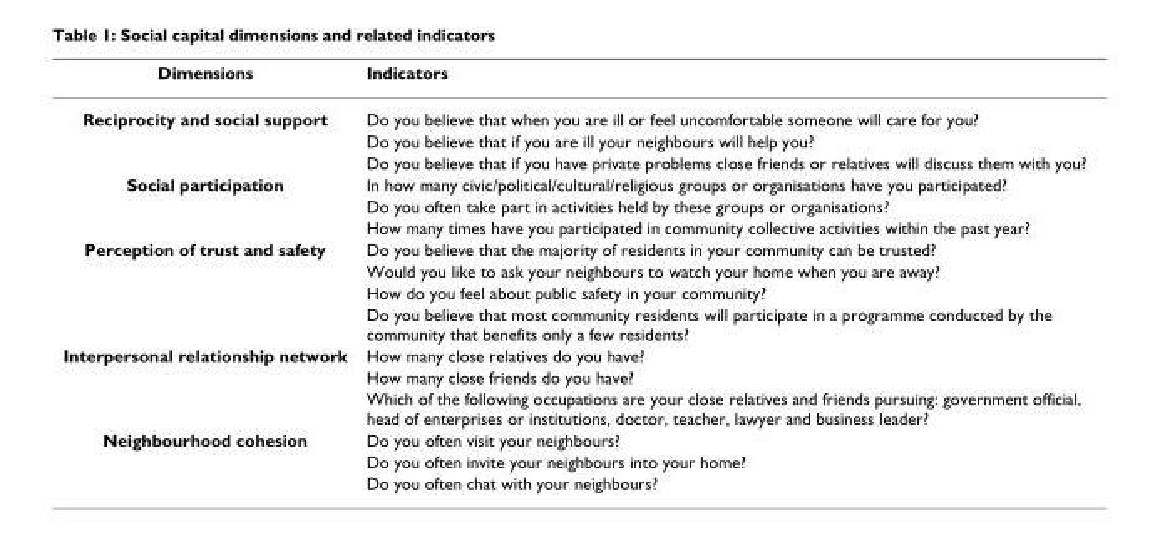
<table><thead><tr><td>Dimensions</td><td>Indicators</td></tr></thead><tbody><tr><td rowspan="3">Reciprocity and social support</td><td>Do you believe that when you are ill or feel uncomfortable someone will care for you?</td></tr><tr><td>Do you believe that if you are ill your neighbours will help you?</td></tr><tr><td>Do you believe that if you have private problems close friends or relatives will discuss them with you?</td></tr><tr><td rowspan="3">Social participation</td><td>In how many civic/political/cultural/religious groups or organisations have you participated?</td></tr><tr><td>Do you often take part in activities held by these groups or organisations?</td></tr><tr><td>How many times have you participated in community collective activities within the past year?</td></tr><tr><td rowspan="4">Perception of trust and safety</td><td>Do you believe that the majority of residents in your community can be trusted?</td></tr><tr><td>Would you like to ask your neighbours to watch your home when you are away?</td></tr><tr><td>How do you feel about public safety in your community?</td></tr><tr><td>Do you believe that most community residents will participate in a programme conducted by the community that benefits only a few residents?</td></tr><tr><td rowspan="3">Interpersonal relationship network</td><td>How many close relatives do you have?</td></tr><tr><td>How many close friends do you have?</td></tr><tr><td>Which of the following occupations are your close relatives and friends pursuing: government official, head of enterprises or institutions, doctor, teacher, lawyer and business leader?</td></tr><tr><td rowspan="3">Neighbourhood cohesion</td><td>Do you often visit your neighbours?</td></tr><tr><td>Do you often invite your neighbours into your home?</td></tr><tr><td>Do you often chat with your neighbours?</td></tr></tbody></table>